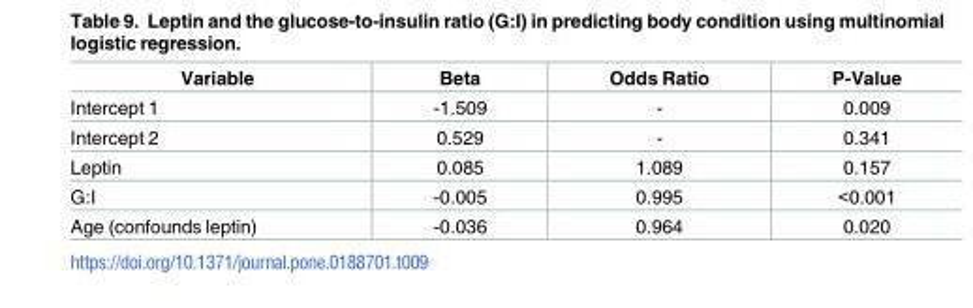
<table><thead><tr><td>Variable</td><td>Beta</td><td>Odds Ratio</td><td>P-Value</td></tr></thead><tbody><tr><td>Intercept 1</td><td>-1.509</td><td>-</td><td>0.009</td></tr><tr><td>Intercept 2</td><td>0.529</td><td>-</td><td>0.341</td></tr><tr><td>Leptin</td><td>0.085</td><td>1.089</td><td>0.157</td></tr><tr><td>G:I</td><td>-0.005</td><td>0.995</td><td>&lt;0.001</td></tr><tr><td>Age (confounds leptin)</td><td>-0.036</td><td>0.964</td><td>0.020</td></tr></tbody></table>